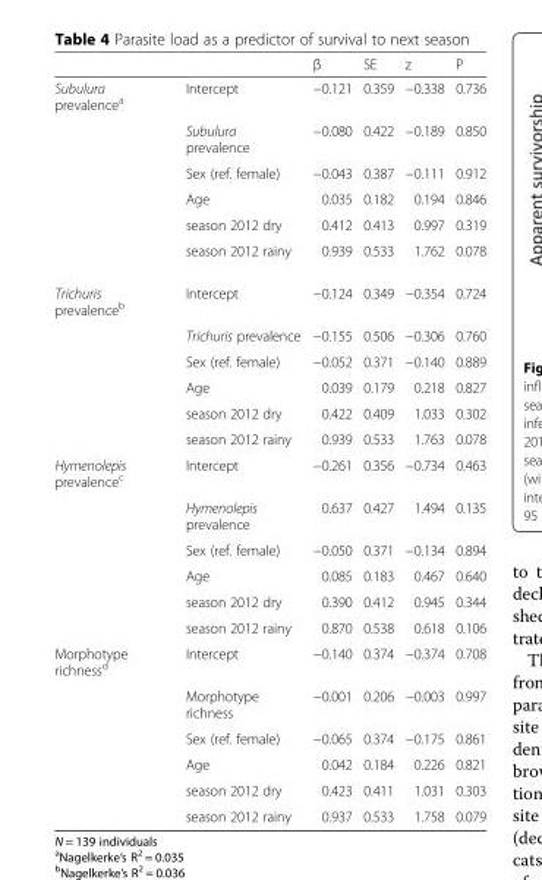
<table><thead><tr><td></td><td></td><td>β</td><td>SE</td><td>z</td><td>P</td></tr></thead><tbody><tr><td rowspan="6">Subulura prevalence<sup>a</sup></td><td>Intercept</td><td>−0.121</td><td>0.359</td><td>−0.338</td><td>0.736</td></tr><tr><td>Subulura prevalence</td><td>−0.080</td><td>0.422</td><td>−0.189</td><td>0.850</td></tr><tr><td>Sex (ref. female)</td><td>−0.043</td><td>0.387</td><td>−0.111</td><td>0.912</td></tr><tr><td>Age</td><td>0.035</td><td>0.182</td><td>0.194</td><td>0.846</td></tr><tr><td>season 2012 dry</td><td>0.412</td><td>0.413</td><td>0.997</td><td>0.319</td></tr><tr><td>season 2012 rainy</td><td>0.939</td><td>0.533</td><td>1.762</td><td>0.078</td></tr><tr><td rowspan="6">Trichuris prevalence<sup>b</sup></td><td>Intercept</td><td>−0.124</td><td>0.349</td><td>−0.354</td><td>0.724</td></tr><tr><td>Trichuris prevalence</td><td>−0.155</td><td>0.506</td><td>−0.306</td><td>0.760</td></tr><tr><td>Sex (ref. female)</td><td>−0.052</td><td>0.371</td><td>−0.140</td><td>0.889</td></tr><tr><td>Age</td><td>0.039</td><td>0.179</td><td>0.218</td><td>0.827</td></tr><tr><td>season 2012 dry</td><td>0.422</td><td>0.409</td><td>1.033</td><td>0.302</td></tr><tr><td>season 2012 rainy</td><td>0.939</td><td>0.533</td><td>1.763</td><td>0.078</td></tr><tr><td rowspan="6">Hymenolepis prevalence<sup>c</sup></td><td>Intercept</td><td>−0.261</td><td>0.356</td><td>−0.734</td><td>0.463</td></tr><tr><td>Hymenolepis prevalence</td><td>0.637</td><td>0.427</td><td>1.494</td><td>0.135</td></tr><tr><td>Sex (ref. female)</td><td>−0.050</td><td>0.371</td><td>−0.134</td><td>0.894</td></tr><tr><td>Age</td><td>0.085</td><td>0.183</td><td>0.467</td><td>0.640</td></tr><tr><td>season 2012 dry</td><td>0.390</td><td>0.412</td><td>0.945</td><td>0.344</td></tr><tr><td>season 2012 rainy</td><td>0.870</td><td>0.538</td><td>0.618</td><td>0.106</td></tr><tr><td rowspan="6">Morphotype richness<sup>d</sup></td><td>Intercept</td><td>−0.140</td><td>0.374</td><td>−0.374</td><td>0.708</td></tr><tr><td>Morphotype richness</td><td>−0.001</td><td>0.206</td><td>−0.003</td><td>0.997</td></tr><tr><td>Sex (ref. female)</td><td>−0.065</td><td>0.374</td><td>−0.175</td><td>0.861</td></tr><tr><td>Age</td><td>0.042</td><td>0.184</td><td>0.226</td><td>0.821</td></tr><tr><td>season 2012 dry</td><td>0.423</td><td>0.411</td><td>1.031</td><td>0.303</td></tr><tr><td>season 2012 rainy</td><td>0.937</td><td>0.533</td><td>1.758</td><td>0.079</td></tr></tbody></table>